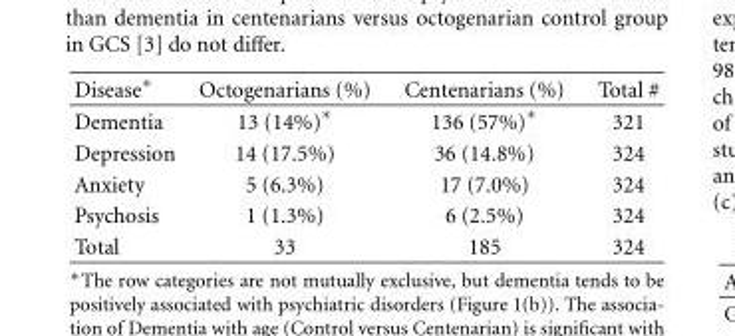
<table><thead><tr><td>Disease∗</td><td>Octogenarians (%)</td><td>Centenarians (%)</td><td>Total #</td></tr></thead><tbody><tr><td>Dementia</td><td>13 (14%)∗</td><td>136 (57%)∗</td><td>321</td></tr><tr><td>Depression</td><td>14 (17.5%)</td><td>36 (14.8%)</td><td>324</td></tr><tr><td>Anxiety</td><td>5 (6.3%)</td><td>17 (7.0%)</td><td>324</td></tr><tr><td>Psychosis</td><td>1 (1.3%)</td><td>6 (2.5%)</td><td>324</td></tr><tr><td>Total</td><td>33</td><td>185</td><td>324</td></tr></tbody></table>